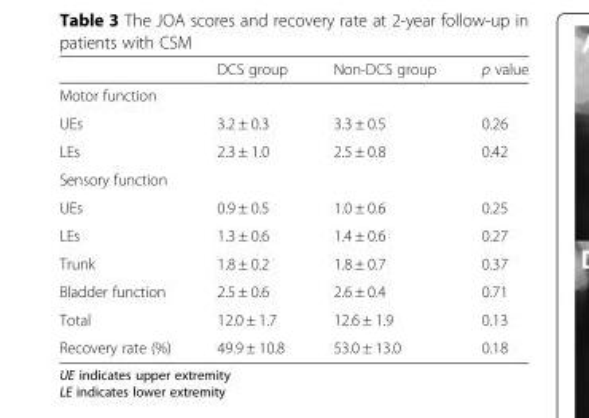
<table><thead><tr><td></td><td>DCS group</td><td>Non-DCS group</td><td>p value</td></tr></thead><tbody><tr><td colspan="4">Motor function</td></tr><tr><td>UEs</td><td>3.2 ± 0.3</td><td>3.3 ± 0.5</td><td>0.26</td></tr><tr><td>LEs</td><td>2.3 ± 1.0</td><td>2.5 ± 0.8</td><td>0.42</td></tr><tr><td colspan="4">Sensory function</td></tr><tr><td>UEs</td><td>0.9 ± 0.5</td><td>1.0 ± 0.6</td><td>0.25</td></tr><tr><td>LEs</td><td>1.3 ± 0.6</td><td>1.4 ± 0.6</td><td>0.27</td></tr><tr><td>Trunk</td><td>1.8 ± 0.2</td><td>1.8 ± 0.7</td><td>0.37</td></tr><tr><td>Bladder function</td><td>2.5 ± 0.6</td><td>2.6 ± 0.4</td><td>0.71</td></tr><tr><td>Total</td><td>12.0 ± 1.7</td><td>12.6 ± 1.9</td><td>0.13</td></tr><tr><td>Recovery rate (%)</td><td>49.9 ± 10.8</td><td>53.0 ± 13.0</td><td>0.18</td></tr></tbody></table>